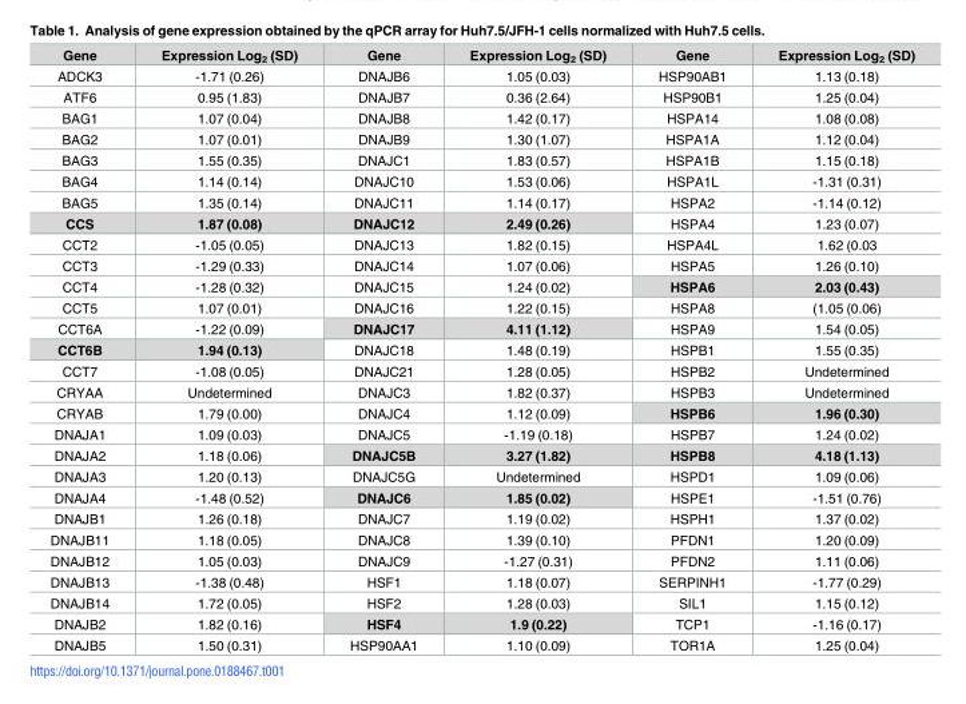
<table><thead><tr><td>Gene</td><td>Expression Log<sub>2</sub> (SD)</td><td>Gene</td><td>Expression Log<sub>2</sub> (SD)</td><td>Gene</td><td>Expression Log<sub>2</sub> (SD)</td></tr></thead><tbody><tr><td>ADCK3</td><td>-1.71 (0.26)</td><td>DNAJB6</td><td>1.05 (0.03)</td><td>HSP90AB1</td><td>1.13 (0.18)</td></tr><tr><td>ATF6</td><td>0.95 (1.83)</td><td>DNAJB7</td><td>0.36 (2.64)</td><td>HSP90B1</td><td>1.25 (0.04)</td></tr><tr><td>BAG1</td><td>1.07 (0.04)</td><td>DNAJB8</td><td>1.42 (0.17)</td><td>HSPA14</td><td>1.08 (0.08)</td></tr><tr><td>BAG2</td><td>1.07 (0.01)</td><td>DNAJB9</td><td>1.30 (1.07)</td><td>HSPA1A</td><td>1.12 (0.04)</td></tr><tr><td>BAG3</td><td>1.55 (0.35)</td><td>DNAJC1</td><td>1.83 (0.57)</td><td>HSPA1B</td><td>1.15 (0.18)</td></tr><tr><td>BAG4</td><td>1.14 (0.14)</td><td>DNAJC10</td><td>1.53 (0.06)</td><td>HSPA1L</td><td>-1.31 (0.31)</td></tr><tr><td>BAG5</td><td>1.35 (0.14)</td><td>DNAJC11</td><td>1.14 (0.17)</td><td>HSPA2</td><td>-1.14 (0.12)</td></tr><tr><td>CCS</td><td>1.87 (0.08)</td><td>DNAJC12</td><td>2.49 (0.26)</td><td>HSPA4</td><td>1.23 (0.07)</td></tr><tr><td>CCT2</td><td>-1.05 (0.05)</td><td>DNAJC13</td><td>1.82 (0.15)</td><td>HSPA4L</td><td>1.62 (0.03</td></tr><tr><td>CCT3</td><td>-1.29 (0.33)</td><td>DNAJC14</td><td>1.07 (0.06)</td><td>HSPA5</td><td>1.26 (0.10)</td></tr><tr><td>CCT4</td><td>-1.28 (0.32)</td><td>DNAJC15</td><td>1.24 (0.02)</td><td>HSPA6</td><td>2.03 (0.43)</td></tr><tr><td>CCT5</td><td>1.07 (0.01)</td><td>DNAJC16</td><td>1.22 (0.15)</td><td>HSPA8</td><td>(1.05 (0.06)</td></tr><tr><td>CCT6A</td><td>-1.22 (0.09)</td><td>DNAJC17</td><td>4.11 (1.12)</td><td>HSPA9</td><td>1.54 (0.05)</td></tr><tr><td>CCT6B</td><td>1.94 (0.13)</td><td>DNAJC18</td><td>1.48 (0.19)</td><td>HSPB1</td><td>1.55 (0.35)</td></tr><tr><td>CCT7</td><td>-1.08 (0.05)</td><td>DNAJC21</td><td>1.28 (0.05)</td><td>HSPB2</td><td>Undetermined</td></tr><tr><td>CRYAA</td><td>Undetermined</td><td>DNAJC3</td><td>1.82 (0.37)</td><td>HSPB3</td><td>Undetermined</td></tr><tr><td>CRYAB</td><td>1.79 (0.00)</td><td>DNAJC4</td><td>1.12 (0.09)</td><td>HSPB6</td><td>1.96 (0.30)</td></tr><tr><td>DNAJA1</td><td>1.09 (0.03)</td><td>DNAJC5</td><td>-1.19 (0.18)</td><td>HSPB7</td><td>1.24 (0.02)</td></tr><tr><td>DNAJA2</td><td>1.18 (0.06)</td><td>DNAJC5B</td><td>3.27 (1.82)</td><td>HSPB8</td><td>4.18 (1.13)</td></tr><tr><td>DNAJA3</td><td>1.20 (0.13)</td><td>DNAJC5G</td><td>Undetermined</td><td>HSPD1</td><td>1.09 (0.06)</td></tr><tr><td>DNAJA4</td><td>-1.48 (0.52)</td><td>DNAJC6</td><td>1.85 (0.02)</td><td>HSPE1</td><td>-1.51 (0.76)</td></tr><tr><td>DNAJB1</td><td>1.26 (0.18)</td><td>DNAJC7</td><td>1.19 (0.02)</td><td>HSPH1</td><td>1.37 (0.02)</td></tr><tr><td>DNAJB11</td><td>1.18 (0.05)</td><td>DNAJC8</td><td>1.39 (0.10)</td><td>PFDN1</td><td>1.20 (0.09)</td></tr><tr><td>DNAJB12</td><td>1.05 (0.03)</td><td>DNAJC9</td><td>-1.27 (0.31)</td><td>PFDN2</td><td>1.11 (0.06)</td></tr><tr><td>DNAJB13</td><td>-1.38 (0.48)</td><td>HSF1</td><td>1.18 (0.07)</td><td>SERPINH1</td><td>-1.77 (0.29)</td></tr><tr><td>DNAJB14</td><td>1.72 (0.05)</td><td>HSF2</td><td>1.28 (0.03)</td><td>SIL1</td><td>1.15 (0.12)</td></tr><tr><td>DNAJB2</td><td>1.82 (0.16)</td><td>HSF4</td><td>1.9 (0.22)</td><td>TCP1</td><td>-1.16 (0.17)</td></tr><tr><td>DNAJB5</td><td>1.50 (0.31)</td><td>HSP90AA1</td><td>1.10 (0.09)</td><td>TOR1A</td><td>1.25 (0.04)</td></tr></tbody></table>